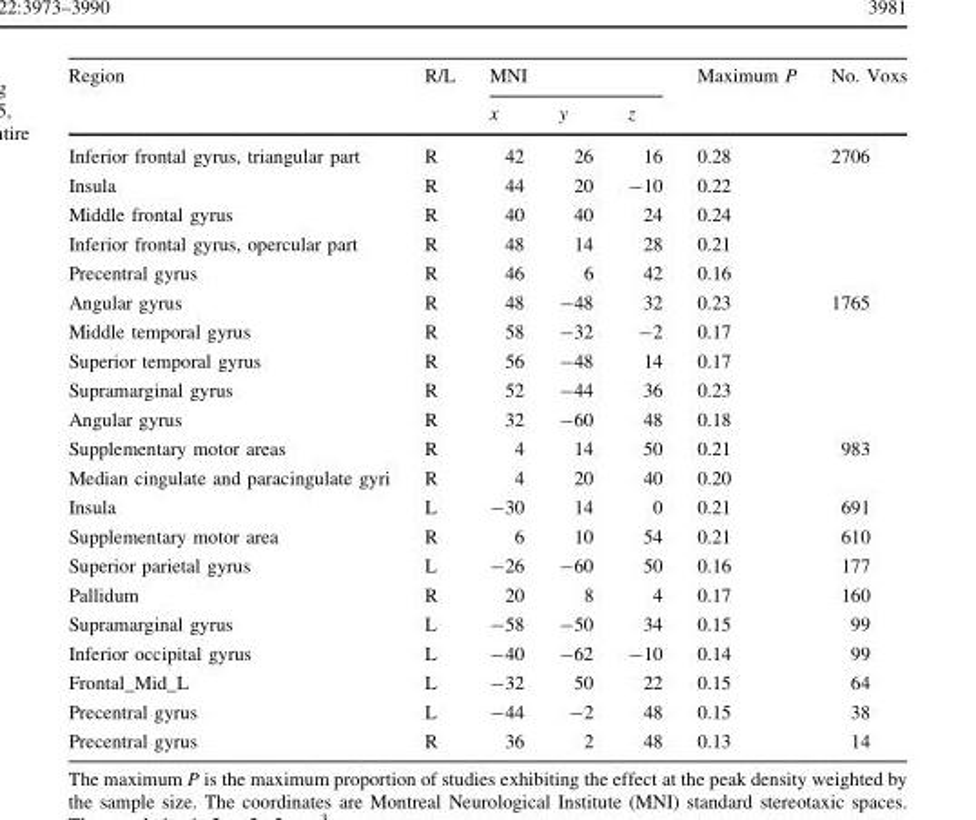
<table><thead><tr><td rowspan="2">Region</td><td rowspan="2">R/L</td><td colspan="3">MNI</td><td rowspan="2">Maximum P</td><td rowspan="2">No. Voxs</td></tr><tr><td>x</td><td>y</td><td>z</td></tr></thead><tbody><tr><td>Inferior frontal gyrus, triangular part</td><td>R</td><td>42</td><td>26</td><td>16</td><td>0.28</td><td>2706</td></tr><tr><td>Insula</td><td>R</td><td>44</td><td>20</td><td>-10</td><td>0.22</td><td></td></tr><tr><td>Middle frontal gyrus</td><td>R</td><td>40</td><td>40</td><td>24</td><td>0.24</td><td></td></tr><tr><td>Inferior frontal gyrus, opercular part</td><td>R</td><td>48</td><td>14</td><td>28</td><td>0.21</td><td></td></tr><tr><td>Precentral gyrus</td><td>R</td><td>46</td><td>6</td><td>42</td><td>0.16</td><td></td></tr><tr><td>Angular gyrus</td><td>R</td><td>48</td><td>-48</td><td>32</td><td>0.23</td><td>1765</td></tr><tr><td>Middle temporal gyrus</td><td>R</td><td>58</td><td>-32</td><td>-2</td><td>0.17</td><td></td></tr><tr><td>Superior temporal gyrus</td><td>R</td><td>56</td><td>-48</td><td>14</td><td>0.17</td><td></td></tr><tr><td>Supramarginal gyrus</td><td>R</td><td>52</td><td>-44</td><td>36</td><td>0.23</td><td></td></tr><tr><td>Angular gyrus</td><td>R</td><td>32</td><td>-60</td><td>48</td><td>0.18</td><td></td></tr><tr><td>Supplementary motor areas</td><td>R</td><td>4</td><td>14</td><td>50</td><td>0.21</td><td>983</td></tr><tr><td>Median cingulate and paracingulate gyri</td><td>R</td><td>4</td><td>20</td><td>40</td><td>0.20</td><td></td></tr><tr><td>Insula</td><td>L</td><td>-30</td><td>14</td><td>0</td><td>0.21</td><td>691</td></tr><tr><td>Supplementary motor area</td><td>R</td><td>6</td><td>10</td><td>54</td><td>0.21</td><td>610</td></tr><tr><td>Superior parietal gyrus</td><td>L</td><td>-26</td><td>-60</td><td>50</td><td>0.16</td><td>177</td></tr><tr><td>Pallidum</td><td>R</td><td>20</td><td>8</td><td>4</td><td>0.17</td><td>160</td></tr><tr><td>Supramarginal gyrus</td><td>L</td><td>-58</td><td>-50</td><td>34</td><td>0.15</td><td>99</td></tr><tr><td>Inferior occipital gyrus</td><td>L</td><td>-40</td><td>-62</td><td>-10</td><td>0.14</td><td>99</td></tr><tr><td>Frontal_Mid_L</td><td>L</td><td>-32</td><td>50</td><td>22</td><td>0.15</td><td>64</td></tr><tr><td>Precentral gyrus</td><td>L</td><td>-44</td><td>-2</td><td>48</td><td>0.15</td><td>38</td></tr><tr><td>Precentral gyrus</td><td>R</td><td>36</td><td>2</td><td>48</td><td>0.13</td><td>14</td></tr></tbody></table>